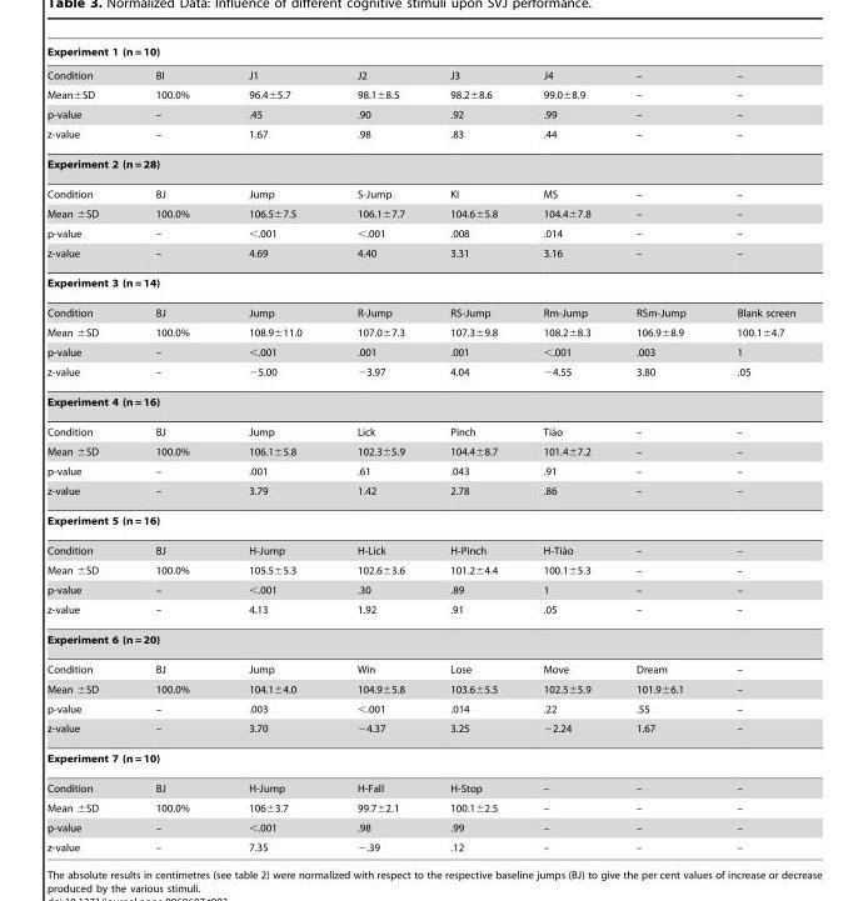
<table><thead><tr><td colspan="8">Experiment 1 (n = 10)</td></tr><tr><td>Condition</td><td>BI</td><td>J1</td><td>J2</td><td>J3</td><td>J4</td><td>–</td><td>–</td></tr></thead><tbody><tr><td>Mean±SD</td><td>100.0%</td><td>96.4±5.7</td><td>98.1±8.5</td><td>98.2±8.6</td><td>99.0±8.9</td><td>–</td><td>–</td></tr><tr><td>p-value</td><td>–</td><td>.45</td><td>.90</td><td>.92</td><td>.99</td><td>–</td><td>–</td></tr><tr><td>z-value</td><td>–</td><td>1.67</td><td>.98</td><td>.83</td><td>.44</td><td>–</td><td>–</td></tr><tr><td colspan="8">Experiment 2 (n = 28)</td></tr><tr><td>Condition</td><td>BJ</td><td>Jump</td><td>S-Jump</td><td>KI</td><td>MS</td><td>–</td><td>–</td></tr><tr><td>Mean ±SD</td><td>100.0%</td><td>106.5±7.5</td><td>106.1±7.7</td><td>104.6±5.8</td><td>104.4±7.8</td><td>–</td><td>–</td></tr><tr><td>p-value</td><td>–</td><td>&lt;.001</td><td>&lt;.001</td><td>.008</td><td>.014</td><td>–</td><td>–</td></tr><tr><td>z-value</td><td>–</td><td>4.69</td><td>4.40</td><td>3.31</td><td>3.16</td><td>–</td><td>–</td></tr><tr><td colspan="8">Experiment 3 (n = 14)</td></tr><tr><td>Condition</td><td>BJ</td><td>Jump</td><td>R-Jump</td><td>RS-Jump</td><td>Rm-Jump</td><td>RSm-Jump</td><td>Blank screen</td></tr><tr><td>Mean ±SD</td><td>100.0%</td><td>108.9±11.0</td><td>107.0±7.3</td><td>107.3±9.8</td><td>108.2±8.3</td><td>106.9±8.9</td><td>100.1±4.7</td></tr><tr><td>p-value</td><td>–</td><td>&lt;.001</td><td>.001</td><td>.001</td><td>&lt;.001</td><td>.003</td><td>1</td></tr><tr><td>z-value</td><td>–</td><td>−5.00</td><td>−3.97</td><td>4.04</td><td>−4.55</td><td>3.80</td><td>.05</td></tr><tr><td colspan="8">Experiment 4 (n = 16)</td></tr><tr><td>Condition</td><td>BJ</td><td>Jump</td><td>Lick</td><td>Pinch</td><td>Tia`o</td><td>–</td><td>–</td></tr><tr><td>Mean ±SD</td><td>100.0%</td><td>106.1±5.8</td><td>102.3±5.9</td><td>104.4±8.7</td><td>101.4±7.2</td><td>–</td><td>–</td></tr><tr><td>p-value</td><td>–</td><td>.001</td><td>.61</td><td>.043</td><td>.91</td><td>–</td><td>–</td></tr><tr><td>z-value</td><td>–</td><td>3.79</td><td>1.42</td><td>2.78</td><td>.86</td><td>–</td><td>–</td></tr><tr><td colspan="8">Experiment 5 (n = 16)</td></tr><tr><td>Condition</td><td>BJ</td><td>H-Jump</td><td>H-Lick</td><td>H-Pinch</td><td>H-Tia`o</td><td>–</td><td>–</td></tr><tr><td>Mean ±SD</td><td>100.0%</td><td>105.5±5.3</td><td>102.6±3.6</td><td>101.2±4.4</td><td>100.1±5.3</td><td>–</td><td>–</td></tr><tr><td>p-value</td><td>–</td><td>&lt;.001</td><td>.30</td><td>.89</td><td>1</td><td>–</td><td>–</td></tr><tr><td>z-value</td><td>–</td><td>4.13</td><td>1.92</td><td>.91</td><td>.05</td><td>–</td><td>–</td></tr><tr><td colspan="8">Experiment 6 (n = 20)</td></tr><tr><td>Condition</td><td>BJ</td><td>Jump</td><td>Win</td><td>Lose</td><td>Move</td><td>Dream</td><td>–</td></tr><tr><td>Mean ±SD</td><td>100.0%</td><td>104.1±4.0</td><td>104.9±5.8</td><td>103.6±5.5</td><td>102.5±5.9</td><td>101.9±6.1</td><td>–</td></tr><tr><td>p-value</td><td>–</td><td>.003</td><td>&lt;.001</td><td>.014</td><td>.22</td><td>.55</td><td>–</td></tr><tr><td>z-value</td><td>–</td><td>3.70</td><td>−4.37</td><td>3.25</td><td>−2.24</td><td>1.67</td><td>–</td></tr><tr><td colspan="8">Experiment 7 (n = 10)</td></tr><tr><td>Condition</td><td>BJ</td><td>H-Jump</td><td>H-Fall</td><td>H-Stop</td><td>–</td><td>–</td><td>–</td></tr><tr><td>Mean ±SD</td><td>100.0%</td><td>106±3.7</td><td>99.7±2.1</td><td>100.1±2.5</td><td>–</td><td>–</td><td>–</td></tr><tr><td>p-value</td><td>–</td><td>&lt;.001</td><td>.98</td><td>.99</td><td>–</td><td>–</td><td>–</td></tr><tr><td>z-value</td><td>–</td><td>7.35</td><td>−.39</td><td>.12</td><td>–</td><td>–</td><td>–</td></tr></tbody></table>